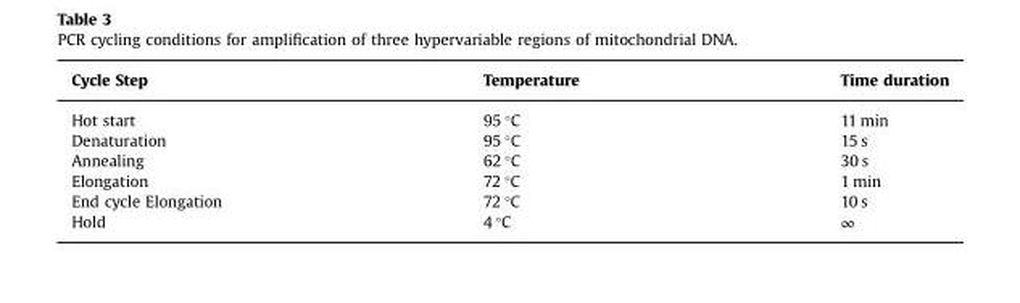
<table><thead><tr><td>Cycle Step</td><td>Temperature</td><td>Time duration</td></tr></thead><tbody><tr><td>Hot start</td><td>95 °C</td><td>11 min</td></tr><tr><td>Denaturation</td><td>95 °C</td><td>15 s</td></tr><tr><td>Annealing</td><td>62 °C</td><td>30 s</td></tr><tr><td>Elongation</td><td>72 °C</td><td>1 min</td></tr><tr><td>End cycle Elongation</td><td>72 °C</td><td>10 s</td></tr><tr><td>Hold</td><td>4 °C</td><td>∞</td></tr></tbody></table>